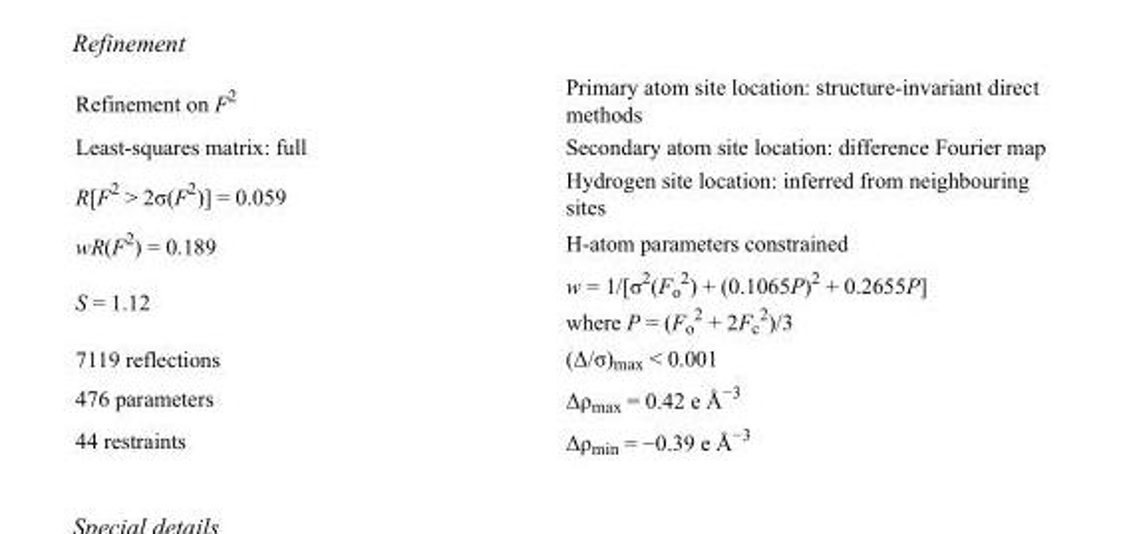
<table><tbody><tr><td>Refinement on F<sup>2</sup></td><td>Primary atom site location: structure-invariant direct methods</td></tr><tr><td>Least-squares matrix: full</td><td>Secondary atom site location: difference Fourier map</td></tr><tr><td>R[F<sup>2</sup> &gt; 2σ(F<sup>2</sup>)] = 0.059</td><td>Hydrogen site location: inferred from neighbouring sites</td></tr><tr><td>wR(F<sup>2</sup>) = 0.189</td><td>H-atom parameters constrained</td></tr><tr><td>S = 1.12</td><td>w = 1/[σ<sup>2</sup>(F<sub>o</sub> <sup>2</sup>) + (0.1065P)<sup>2</sup> + 0.2655P] where P = (F<sub>o</sub> <sup>2</sup> + 2F<sub>c</sub> <sup>2</sup>)/3</td></tr><tr><td>7119 reflections</td><td>(Δ/σ)<sub>max</sub> &lt; 0.001</td></tr><tr><td>476 parameters</td><td>Δρ<sub>max</sub> = 0.42 e Å<sup>−3</sup></td></tr><tr><td>44 restraints</td><td>Δρ<sub>min</sub> = −0.39 e Å<sup>−3</sup></td></tr></tbody></table>